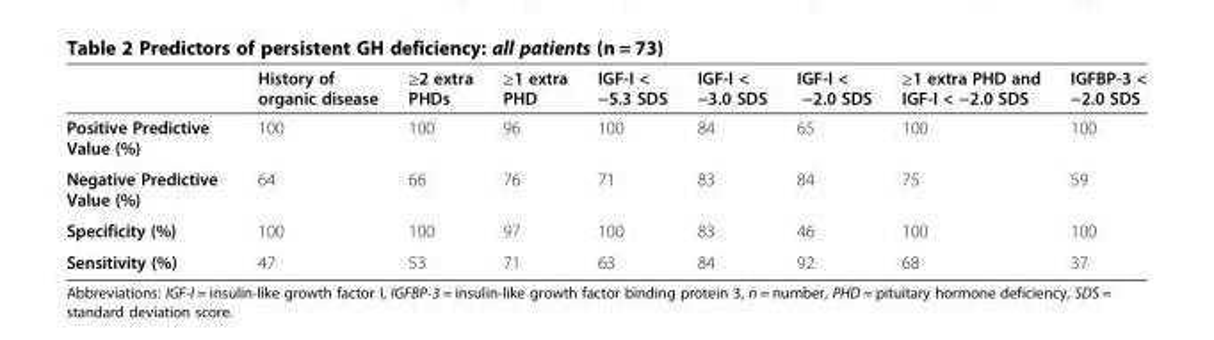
<table><thead><tr><td></td><td>History of organic disease</td><td>≥2 extra PHDs</td><td>≥1 extra PHD</td><td>IGF-I &lt; −5.3 SDS</td><td>IGF-I &lt; −3.0 SDS</td><td>IGF-I &lt; −2.0 SDS</td><td>≥1 extra PHD and IGF-I &lt; −2.0 SDS</td><td>IGFBP-3 &lt; −2.0 SDS</td></tr></thead><tbody><tr><td>Positive Predictive Value (%)</td><td>100</td><td>100</td><td>96</td><td>100</td><td>84</td><td>65</td><td>100</td><td>100</td></tr><tr><td>Negative Predictive Value (%)</td><td>64</td><td>66</td><td>76</td><td>71</td><td>83</td><td>84</td><td>75</td><td>59</td></tr><tr><td>Specificity (%)</td><td>100</td><td>100</td><td>97</td><td>100</td><td>83</td><td>46</td><td>100</td><td>100</td></tr><tr><td>Sensitivity (%)</td><td>47</td><td>53</td><td>71</td><td>63</td><td>84</td><td>92</td><td>68</td><td>37</td></tr></tbody></table>